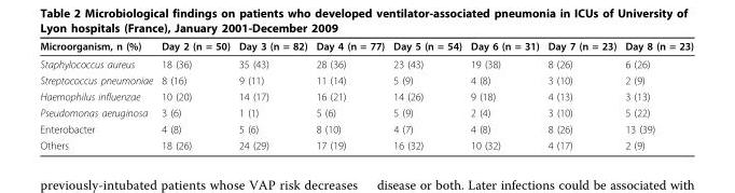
<table><thead><tr><td>Microorganism, n (%)</td><td>Day 2 (n = 50)</td><td>Day 3 (n = 82)</td><td>Day 4 (n = 77)</td><td>Day 5 (n = 54)</td><td>Day 6 (n = 31)</td><td>Day 7 (n = 23)</td><td>Day 8 (n = 23)</td></tr></thead><tbody><tr><td>Staphylococcus aureus</td><td>18 (36)</td><td>35 (43)</td><td>28 (36)</td><td>23 (43)</td><td>19 (38)</td><td>8 (26)</td><td>6 (26)</td></tr><tr><td>Streptococcus pneumoniae</td><td>8 (16)</td><td>9 (11)</td><td>11 (14)</td><td>5 (9)</td><td>4 (8)</td><td>3 (10)</td><td>2 (9)</td></tr><tr><td>Haemophilus influenzae</td><td>10 (20)</td><td>14 (17)</td><td>16 (21)</td><td>14 (26)</td><td>9 (18)</td><td>4 (13)</td><td>3 (13)</td></tr><tr><td>Pseudomonas aeruginosa</td><td>3 (6)</td><td>1 (1)</td><td>5 (6)</td><td>5 (9)</td><td>2 (4)</td><td>3 (10)</td><td>5 (22)</td></tr><tr><td>Enterobacter</td><td>4 (8)</td><td>5 (6)</td><td>8 (10)</td><td>4 (7)</td><td>4 (8)</td><td>8 (26)</td><td>13 (39)</td></tr><tr><td>Others</td><td>18 (26)</td><td>24 (29)</td><td>17 (19)</td><td>16 (32)</td><td>10 (32)</td><td>4 (17)</td><td>2 (9)</td></tr></tbody></table>